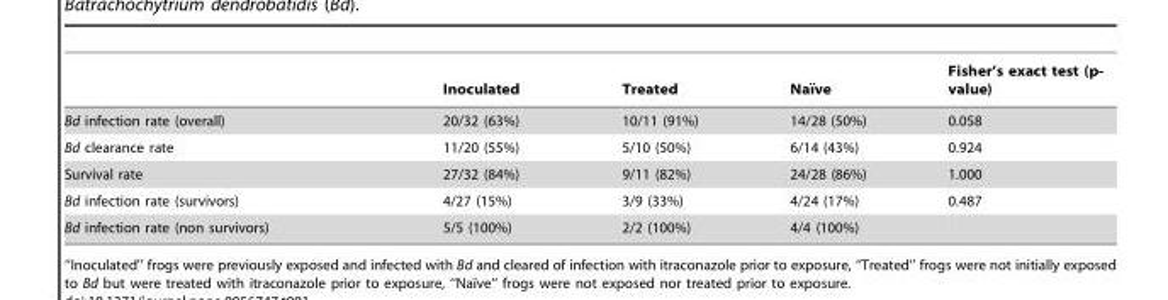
<table><thead><tr><td></td><td>Inoculated</td><td>Treated</td><td>Naı¨ve</td><td>Fisher’s exact test (p- value)</td></tr></thead><tbody><tr><td>Bd infection rate (overall)</td><td>20/32 (63%)</td><td>10/11 (91%)</td><td>14/28 (50%)</td><td>0.058</td></tr><tr><td>Bd clearance rate</td><td>11/20 (55%)</td><td>5/10 (50%)</td><td>6/14 (43%)</td><td>0.924</td></tr><tr><td>Survival rate</td><td>27/32 (84%)</td><td>9/11 (82%)</td><td>24/28 (86%)</td><td>1.000</td></tr><tr><td>Bd infection rate (survivors)</td><td>4/27 (15%)</td><td>3/9 (33%)</td><td>4/24 (17%)</td><td>0.487</td></tr><tr><td>Bd infection rate (non survivors)</td><td>5/5 (100%)</td><td>2/2 (100%)</td><td>4/4 (100%)</td><td></td></tr></tbody></table>